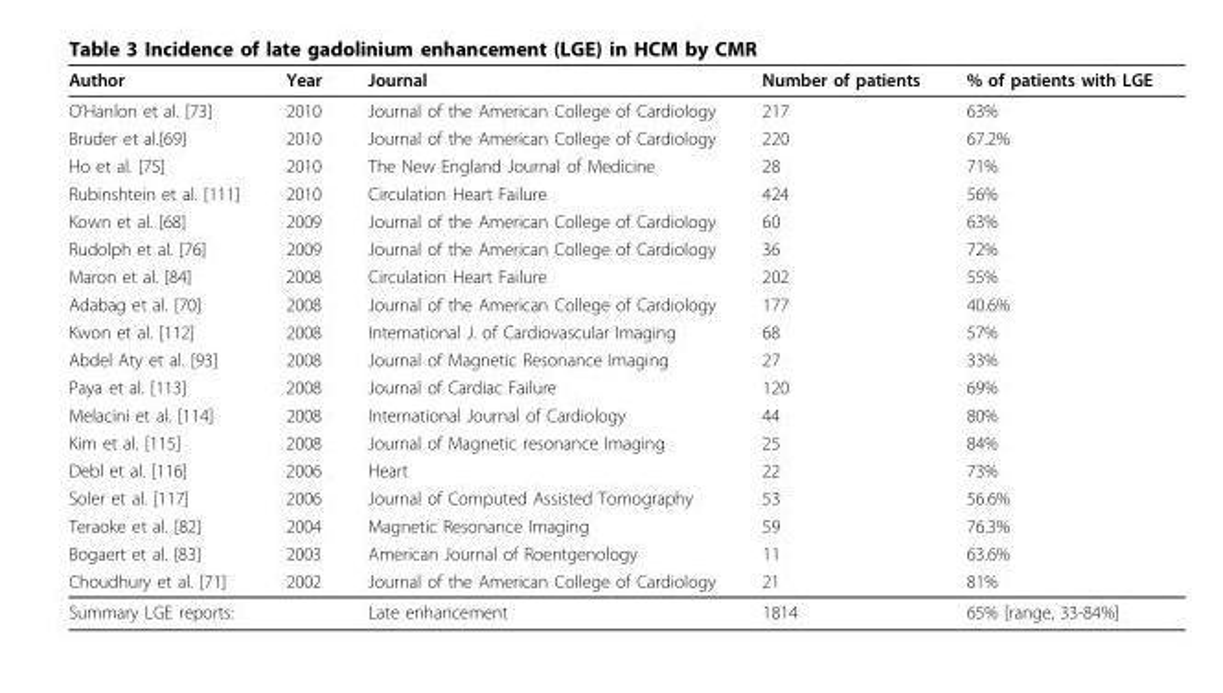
<table><thead><tr><td>Author</td><td>Year</td><td>Journal</td><td>Number of patients</td><td>% of patients with LGE</td></tr></thead><tbody><tr><td>O’Hanlon et al. [73]</td><td>2010</td><td>Journal of the American College of Cardiology</td><td>217</td><td>63%</td></tr><tr><td>Bruder et al.[69]</td><td>2010</td><td>Journal of the American College of Cardiology</td><td>220</td><td>67.2%</td></tr><tr><td>Ho et al. [75]</td><td>2010</td><td>The New England Journal of Medicine</td><td>28</td><td>71%</td></tr><tr><td>Rubinshtein et al. [111]</td><td>2010</td><td>Circulation Heart Failure</td><td>424</td><td>56%</td></tr><tr><td>Kown et al. [68]</td><td>2009</td><td>Journal of the American College of Cardiology</td><td>60</td><td>63%</td></tr><tr><td>Rudolph et al. [76]</td><td>2009</td><td>Journal of the American College of Cardiology</td><td>36</td><td>72%</td></tr><tr><td>Maron et al. [84]</td><td>2008</td><td>Circulation Heart Failure</td><td>202</td><td>55%</td></tr><tr><td>Adabag et al. [70]</td><td>2008</td><td>Journal of the American College of Cardiology</td><td>177</td><td>40.6%</td></tr><tr><td>Kwon et al. [112]</td><td>2008</td><td>International J. of Cardiovascular Imaging</td><td>68</td><td>57%</td></tr><tr><td>Abdel Aty et al. [93]</td><td>2008</td><td>Journal of Magnetic Resonance Imaging</td><td>27</td><td>33%</td></tr><tr><td>Paya et al. [113]</td><td>2008</td><td>Journal of Cardiac Failure</td><td>120</td><td>69%</td></tr><tr><td>Melacini et al. [114]</td><td>2008</td><td>International Journal of Cardiology</td><td>44</td><td>80%</td></tr><tr><td>Kim et al. [115]</td><td>2008</td><td>Journal of Magnetic resonance Imaging</td><td>25</td><td>84%</td></tr><tr><td>Debl et al. [116]</td><td>2006</td><td>Heart</td><td>22</td><td>73%</td></tr><tr><td>Soler et al. [117]</td><td>2006</td><td>Journal of Computed Assisted Tomography</td><td>53</td><td>56.6%</td></tr><tr><td>Teraoke et al. [82]</td><td>2004</td><td>Magnetic Resonance Imaging</td><td>59</td><td>76.3%</td></tr><tr><td>Bogaert et al. [83]</td><td>2003</td><td>American Journal of Roentgenology</td><td>11</td><td>63.6%</td></tr><tr><td>Choudhury et al. [71]</td><td>2002</td><td>Journal of the American College of Cardiology</td><td>21</td><td>81%</td></tr><tr><td>Summary LGE reports:</td><td></td><td>Late enhancement</td><td>1814</td><td>65% [range, 33-84%]</td></tr></tbody></table>